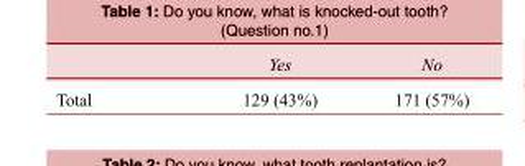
<table><thead><tr><td></td><td>Yes</td><td>No</td></tr></thead><tbody><tr><td>Total</td><td>129 (43%)</td><td>171 (57%)</td></tr></tbody></table>